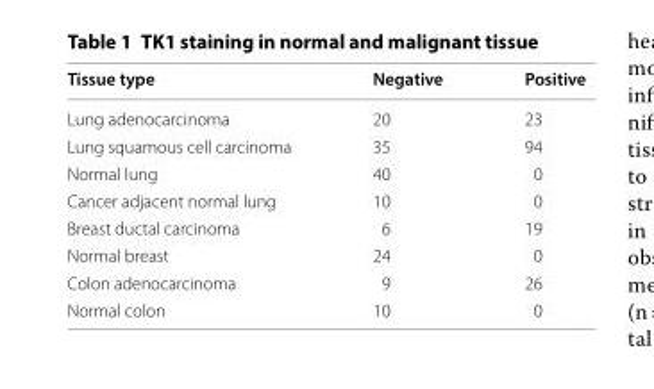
<table><thead><tr><td>Tissue type</td><td>Negative</td><td>Positive</td></tr></thead><tbody><tr><td>Lung adenocarcinoma</td><td>20</td><td>23</td></tr><tr><td>Lung squamous cell carcinoma</td><td>35</td><td>94</td></tr><tr><td>Normal lung</td><td>40</td><td>0</td></tr><tr><td>Cancer adjacent normal lung</td><td>10</td><td>0</td></tr><tr><td>Breast ductal carcinoma</td><td>6</td><td>19</td></tr><tr><td>Normal breast</td><td>24</td><td>0</td></tr><tr><td>Colon adenocarcinoma</td><td>9</td><td>26</td></tr><tr><td>Normal colon</td><td>10</td><td>0</td></tr></tbody></table>